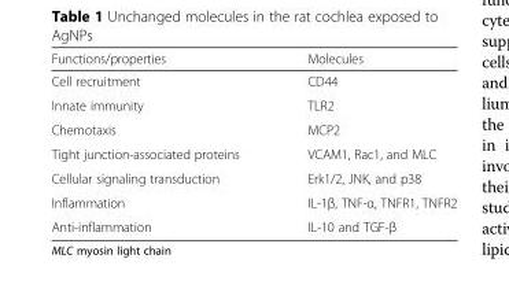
<table><thead><tr><td>Functions/properties</td><td>Molecules</td></tr></thead><tbody><tr><td>Cell recruitment</td><td>CD44</td></tr><tr><td>Innate immunity</td><td>TLR2</td></tr><tr><td>Chemotaxis</td><td>MCP2</td></tr><tr><td>Tight junction-associated proteins</td><td>VCAM1, Rac1, and MLC</td></tr><tr><td>Cellular signaling transduction</td><td>Erk1/2, JNK, and p38</td></tr><tr><td>Inflammation</td><td>IL-1β, TNF-α, TNFR1, TNFR2</td></tr><tr><td>Anti-inflammation</td><td>IL-10 and TGF-β</td></tr></tbody></table>